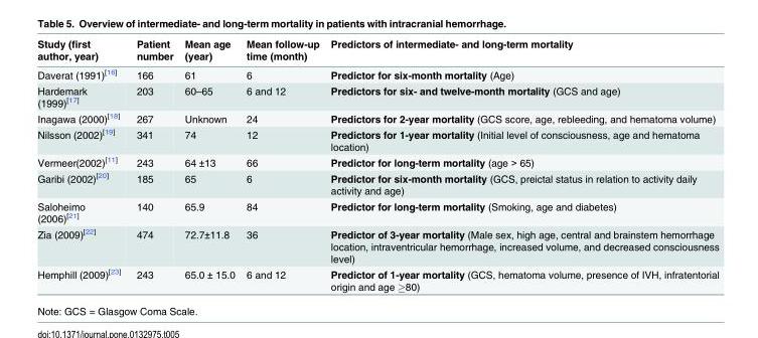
<table><thead><tr><td>Study (first author, year)</td><td>Patient number</td><td>Mean age (year)</td><td>Mean follow-up time (month)</td><td>Predictors of intermediate- and long-term mortality</td></tr></thead><tbody><tr><td>Daverat (1991)<sup>[16]</sup></td><td>166</td><td>61</td><td>6</td><td>Predictor for six-month mortality (Age)</td></tr><tr><td>Hardemark (1999)<sup>[17]</sup></td><td>203</td><td>60–65</td><td>6 and 12</td><td>Predictors for six- and twelve-month mortality (GCS and age)</td></tr><tr><td>Inagawa (2000)<sup>[18]</sup></td><td>267</td><td>Unknown</td><td>24</td><td>Predictors for 2-year mortality (GCS score, age, rebleeding, and hematoma volume)</td></tr><tr><td>Nilsson (2002)<sup>[19]</sup></td><td>341</td><td>74</td><td>12</td><td>Predictors for 1-year mortality (Initial level of consciousness, age and hematoma location)</td></tr><tr><td>Vermeer(2002)<sup>[11]</sup></td><td>243</td><td>64 ±13</td><td>66</td><td>Predictor for long-term mortality (age &gt; 65)</td></tr><tr><td>Garibi (2002)<sup>[20]</sup></td><td>185</td><td>65</td><td>6</td><td>Predictor for six-month mortality (GCS, preictal status in relation to activity daily activity and age)</td></tr><tr><td>Saloheimo (2006)<sup>[21]</sup></td><td>140</td><td>65.9</td><td>84</td><td>Predictor for long-term mortality (Smoking, age and diabetes)</td></tr><tr><td>Zia (2009)<sup>[22]</sup></td><td>474</td><td>72.7±11.8</td><td>36</td><td>Predictor of 3-year mortality (Male sex, high age, central and brainstem hemorrhage location, intraventricular hemorrhage, increased volume, and decreased consciousness level)</td></tr><tr><td>Hemphill (2009)<sup>[23]</sup></td><td>243</td><td>65.0 ± 15.0</td><td>6 and 12</td><td>Predictor of 1-year mortality (GCS, hematoma volume, presence of IVH, infratentorial origin and age ≥80)</td></tr></tbody></table>